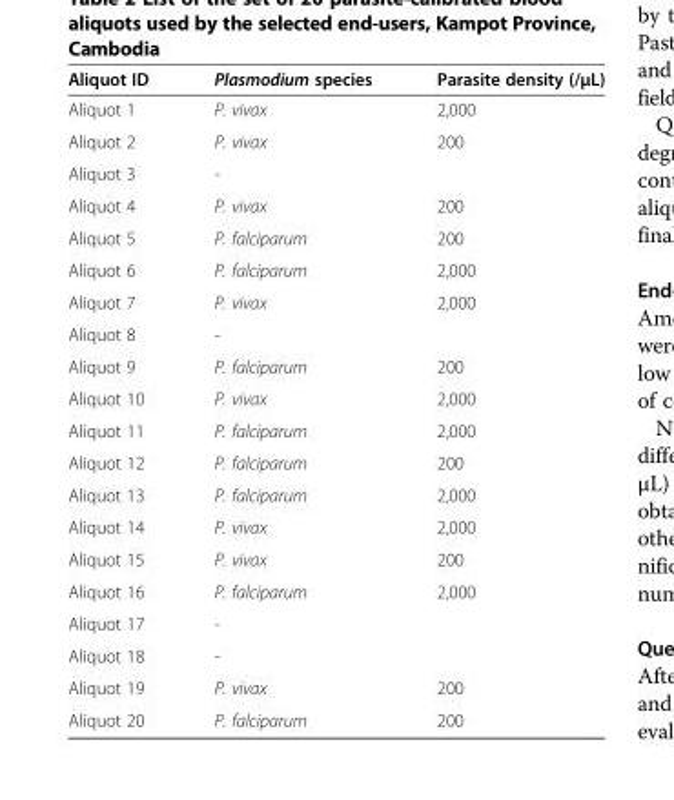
<table><thead><tr><td>Aliquot ID</td><td>Plasmodium species</td><td>Parasite density (/μL)</td></tr></thead><tbody><tr><td>Aliquot 1</td><td>P. vivax</td><td>2,000</td></tr><tr><td>Aliquot 2</td><td>P. vivax</td><td>200</td></tr><tr><td>Aliquot 3</td><td>-</td><td></td></tr><tr><td>Aliquot 4</td><td>P. vivax</td><td>200</td></tr><tr><td>Aliquot 5</td><td>P. falciparum</td><td>200</td></tr><tr><td>Aliquot 6</td><td>P. falciparum</td><td>2,000</td></tr><tr><td>Aliquot 7</td><td>P. vivax</td><td>2,000</td></tr><tr><td>Aliquot 8</td><td>-</td><td></td></tr><tr><td>Aliquot 9</td><td>P. falciparum</td><td>200</td></tr><tr><td>Aliquot 10</td><td>P. vivax</td><td>2,000</td></tr><tr><td>Aliquot 11</td><td>P. falciparum</td><td>2,000</td></tr><tr><td>Aliquot 12</td><td>P. falciparum</td><td>200</td></tr><tr><td>Aliquot 13</td><td>P. falciparum</td><td>2,000</td></tr><tr><td>Aliquot 14</td><td>P. vivax</td><td>2,000</td></tr><tr><td>Aliquot 15</td><td>P. vivax</td><td>200</td></tr><tr><td>Aliquot 16</td><td>P. falciparum</td><td>2,000</td></tr><tr><td>Aliquot 17</td><td>-</td><td></td></tr><tr><td>Aliquot 18</td><td>-</td><td></td></tr><tr><td>Aliquot 19</td><td>P. vivax</td><td>200</td></tr><tr><td>Aliquot 20</td><td>P. falciparum</td><td>200</td></tr></tbody></table>